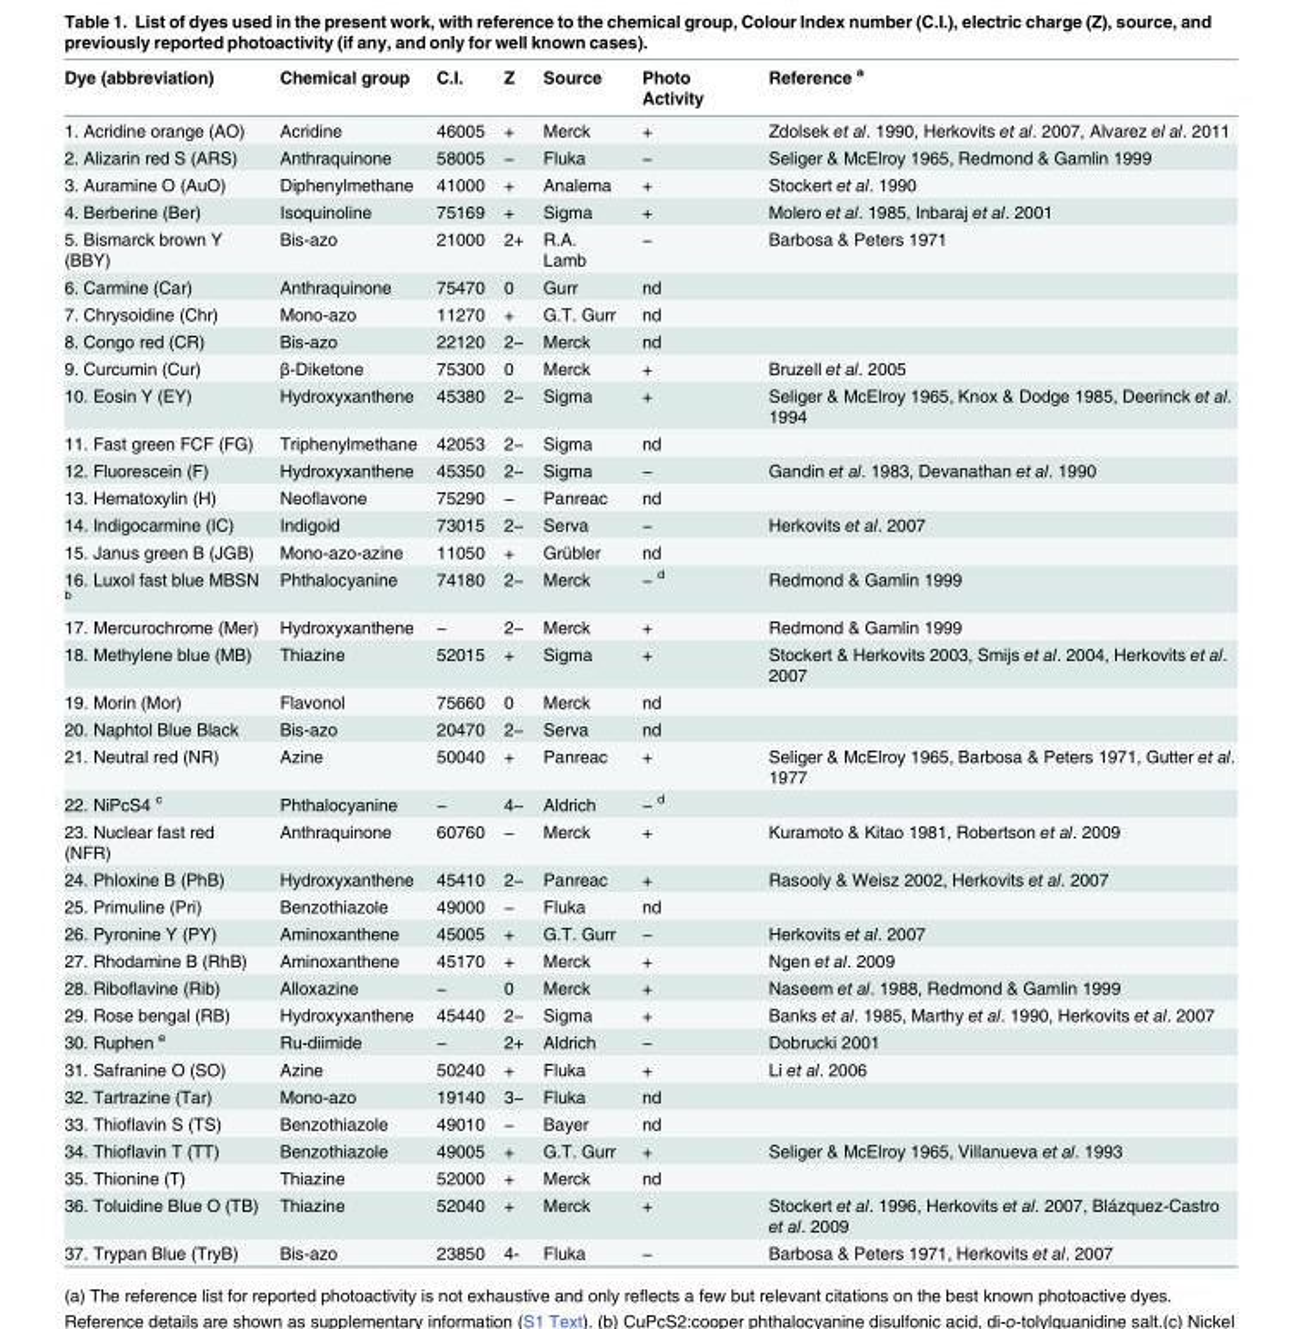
<table><thead><tr><td>Dye (abbreviation)</td><td>Chemical group</td><td>C.I.</td><td>Z</td><td>Source</td><td>Photo Activity</td><td>Reference <sup>a</sup></td></tr></thead><tbody><tr><td>1. Acridine orange (AO)</td><td>Acridine</td><td>46005</td><td>+</td><td>Merck</td><td>+</td><td>Zdolsek et al. 1990, Herkovits et al. 2007, Alvarez el al. 2011</td></tr><tr><td>2. Alizarin red S (ARS)</td><td>Anthraquinone</td><td>58005</td><td>−</td><td>Fluka</td><td>−</td><td>Seliger &amp; McElroy 1965, Redmond &amp; Gamlin 1999</td></tr><tr><td>3. Auramine O (AuO)</td><td>Diphenylmethane</td><td>41000</td><td>+</td><td>Analema</td><td>+</td><td>Stockert et al. 1990</td></tr><tr><td>4. Berberine (Ber)</td><td>Isoquinoline</td><td>75169</td><td>+</td><td>Sigma</td><td>+</td><td>Molero et al. 1985, Inbaraj et al. 2001</td></tr><tr><td>5. Bismarck brown Y (BBY)</td><td>Bis-azo</td><td>21000</td><td>2+</td><td>R.A. Lamb</td><td>−</td><td>Barbosa &amp; Peters 1971</td></tr><tr><td>6. Carmine (Car)</td><td>Anthraquinone</td><td>75470</td><td>0</td><td>Gurr</td><td>nd</td><td></td></tr><tr><td>7. Chrysoidine (Chr)</td><td>Mono-azo</td><td>11270</td><td>+</td><td>G.T. Gurr</td><td>nd</td><td></td></tr><tr><td>8. Congo red (CR)</td><td>Bis-azo</td><td>22120</td><td>2−</td><td>Merck</td><td>nd</td><td></td></tr><tr><td>9. Curcumin (Cur)</td><td>β-Diketone</td><td>75300</td><td>0</td><td>Merck</td><td>+</td><td>Bruzell et al. 2005</td></tr><tr><td>10. Eosin Y (EY)</td><td>Hydroxyxanthene</td><td>45380</td><td>2−</td><td>Sigma</td><td>+</td><td>Seliger &amp; McElroy 1965, Knox &amp; Dodge 1985, Deerinck et al. 1994</td></tr><tr><td>11. Fast green FCF (FG)</td><td>Triphenylmethane</td><td>42053</td><td>2−</td><td>Sigma</td><td>nd</td><td></td></tr><tr><td>12. Fluorescein (F)</td><td>Hydroxyxanthene</td><td>45350</td><td>2−</td><td>Sigma</td><td>−</td><td>Gandin et al. 1983, Devanathan et al. 1990</td></tr><tr><td>13. Hematoxylin (H)</td><td>Neoflavone</td><td>75290</td><td>−</td><td>Panreac</td><td>nd</td><td></td></tr><tr><td>14. Indigocarmine (IC)</td><td>Indigoid</td><td>73015</td><td>2−</td><td>Serva</td><td>−</td><td>Herkovits et al. 2007</td></tr><tr><td>15. Janus green B (JGB)</td><td>Mono-azo-azine</td><td>11050</td><td>+</td><td>Grübler</td><td>nd</td><td></td></tr><tr><td>16. Luxol fast blue MBSN <sup>b</sup></td><td>Phthalocyanine</td><td>74180</td><td>2−</td><td>Merck</td><td>− <sup>d</sup></td><td>Redmond &amp; Gamlin 1999</td></tr><tr><td>17. Mercurochrome (Mer)</td><td>Hydroxyxanthene</td><td>−</td><td>2−</td><td>Merck</td><td>+</td><td>Redmond &amp; Gamlin 1999</td></tr><tr><td>18. Methylene blue (MB)</td><td>Thiazine</td><td>52015</td><td>+</td><td>Sigma</td><td>+</td><td>Stockert &amp; Herkovits 2003, Smijs et al. 2004, Herkovits et al. 2007</td></tr><tr><td>19. Morin (Mor)</td><td>Flavonol</td><td>75660</td><td>0</td><td>Merck</td><td>nd</td><td></td></tr><tr><td>20. Naphtol Blue Black</td><td>Bis-azo</td><td>20470</td><td>2−</td><td>Serva</td><td>nd</td><td></td></tr><tr><td>21. Neutral red (NR)</td><td>Azine</td><td>50040</td><td>+</td><td>Panreac</td><td>+</td><td>Seliger &amp; McElroy 1965, Barbosa &amp; Peters 1971, Gutter et al. 1977</td></tr><tr><td>22. NiPcS4 <sup>c</sup></td><td>Phthalocyanine</td><td>−</td><td>4−</td><td>Aldrich</td><td>− <sup>d</sup></td><td></td></tr><tr><td>23. Nuclear fast red (NFR)</td><td>Anthraquinone</td><td>60760</td><td>−</td><td>Merck</td><td>+</td><td>Kuramoto &amp; Kitao 1981, Robertson et al. 2009</td></tr><tr><td>24. Phloxine B (PhB)</td><td>Hydroxyxanthene</td><td>45410</td><td>2−</td><td>Panreac</td><td>+</td><td>Rasooly &amp; Weisz 2002, Herkovits et al. 2007</td></tr><tr><td>25. Primuline (Pri)</td><td>Benzothiazole</td><td>49000</td><td>−</td><td>Fluka</td><td>nd</td><td></td></tr><tr><td>26. Pyronine Y (PY)</td><td>Aminoxanthene</td><td>45005</td><td>+</td><td>G.T. Gurr</td><td>−</td><td>Herkovits et al. 2007</td></tr><tr><td>27. Rhodamine B (RhB)</td><td>Aminoxanthene</td><td>45170</td><td>+</td><td>Merck</td><td>+</td><td>Ngen et al. 2009</td></tr><tr><td>28. Riboflavine (Rib)</td><td>Alloxazine</td><td>−</td><td>0</td><td>Merck</td><td>+</td><td>Naseem et al. 1988, Redmond &amp; Gamlin 1999</td></tr><tr><td>29. Rose bengal (RB)</td><td>Hydroxyxanthene</td><td>45440</td><td>2−</td><td>Sigma</td><td>+</td><td>Banks et al. 1985, Marthy et al. 1990, Herkovits et al. 2007</td></tr><tr><td>30. Ruphen <sup>e</sup></td><td>Ru-diimide</td><td>−</td><td>2+</td><td>Aldrich</td><td>−</td><td>Dobrucki 2001</td></tr><tr><td>31. Safranine O (SO)</td><td>Azine</td><td>50240</td><td>+</td><td>Fluka</td><td>+</td><td>Li et al. 2006</td></tr><tr><td>32. Tartrazine (Tar)</td><td>Mono-azo</td><td>19140</td><td>3−</td><td>Fluka</td><td>nd</td><td></td></tr><tr><td>33. Thioflavin S (TS)</td><td>Benzothiazole</td><td>49010</td><td>−</td><td>Bayer</td><td>nd</td><td></td></tr><tr><td>34. Thioflavin T (TT)</td><td>Benzothiazole</td><td>49005</td><td>+</td><td>G.T. Gurr</td><td>+</td><td>Seliger &amp; McElroy 1965, Villanueva et al. 1993</td></tr><tr><td>35. Thionine (T)</td><td>Thiazine</td><td>52000</td><td>+</td><td>Merck</td><td>nd</td><td></td></tr><tr><td>36. Toluidine Blue O (TB)</td><td>Thiazine</td><td>52040</td><td>+</td><td>Merck</td><td>+</td><td>Stockert et al. 1996, Herkovits et al. 2007, Blázquez-Castro et al. 2009</td></tr><tr><td>37. Trypan Blue (TryB)</td><td>Bis-azo</td><td>23850</td><td>4-</td><td>Fluka</td><td>−</td><td>Barbosa &amp; Peters 1971, Herkovits et al. 2007</td></tr></tbody></table>